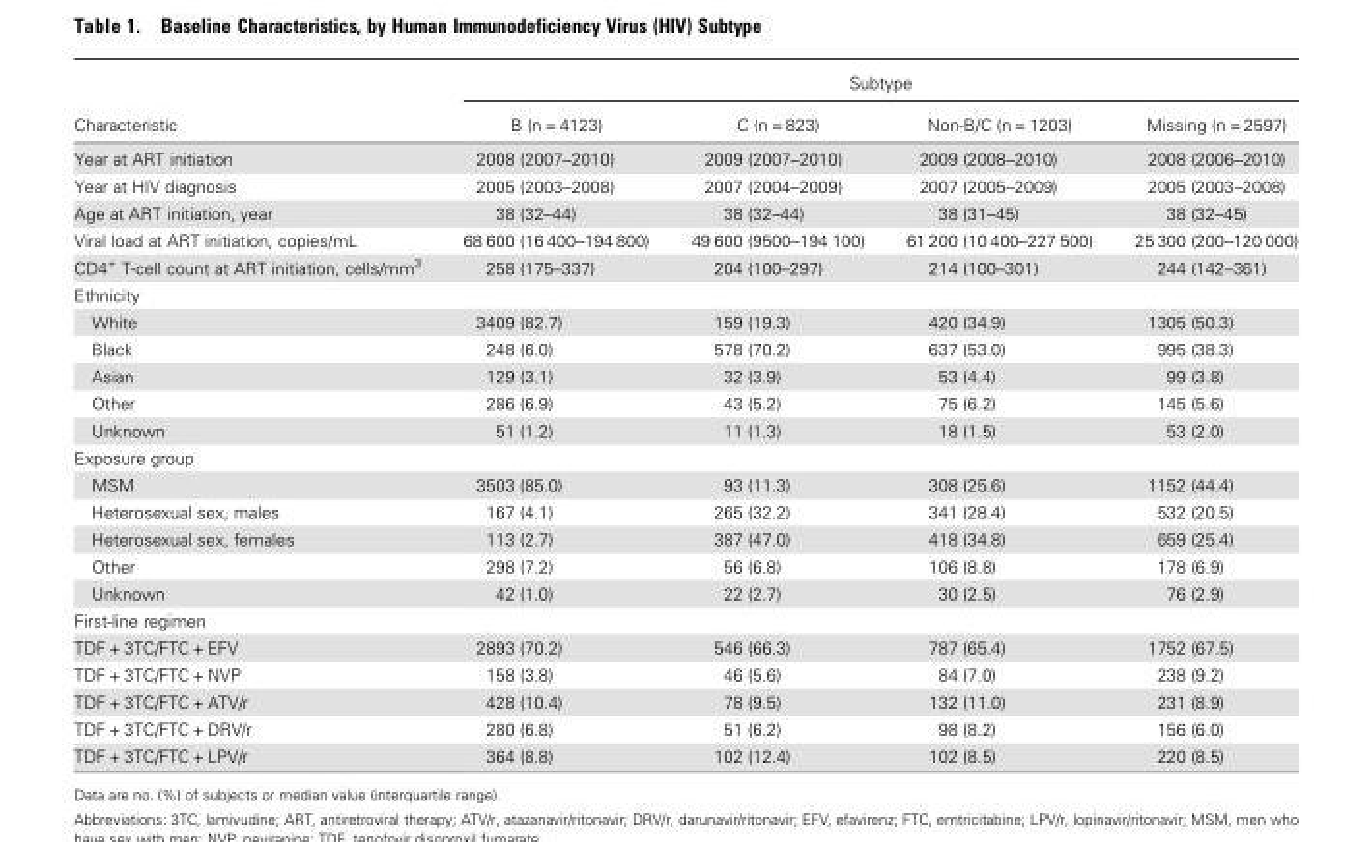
<table><thead><tr><td rowspan="2">Characteristic</td><td colspan="4">Subtype</td></tr><tr><td>B (n = 4123)</td><td>C (n = 823)</td><td>Non-B/C (n = 1203)</td><td>Missing (n = 2597)</td></tr></thead><tbody><tr><td>Year at ART initiation</td><td>2008 (2007–2010)</td><td>2009 (2007–2010)</td><td>2009 (2008–2010)</td><td>2008 (2006–2010)</td></tr><tr><td>Year at HIV diagnosis</td><td>2005 (2003–2008)</td><td>2007 (2004–2009)</td><td>2007 (2005–2009)</td><td>2005 (2003–2008)</td></tr><tr><td>Age at ART initiation, year</td><td>38 (32–44)</td><td>38 (32–44)</td><td>38 (31–45)</td><td>38 (32–45)</td></tr><tr><td>Viral load at ART initiation, copies/mL</td><td>68 600 (16 400–194 800)</td><td>49 600 (9500–194 100)</td><td>61 200 (10 400–227 500)</td><td>25 300 (200–120 000)</td></tr><tr><td>CD4<sup>+</sup> T-cell count at ART initiation, cells/mm<sup>3</sup></td><td>258 (175–337)</td><td>204 (100–297)</td><td>214 (100–301)</td><td>244 (142–361)</td></tr><tr><td colspan="5">Ethnicity</td></tr><tr><td>White</td><td>3409 (82.7)</td><td>159 (19.3)</td><td>420 (34.9)</td><td>1305 (50.3)</td></tr><tr><td>Black</td><td>248 (6.0)</td><td>578 (70.2)</td><td>637 (53.0)</td><td>995 (38.3)</td></tr><tr><td>Asian</td><td>129 (3.1)</td><td>32 (3.9)</td><td>53 (4.4)</td><td>99 (3.8)</td></tr><tr><td>Other</td><td>286 (6.9)</td><td>43 (5.2)</td><td>75 (6.2)</td><td>145 (5.6)</td></tr><tr><td>Unknown</td><td>51 (1.2)</td><td>11 (1.3)</td><td>18 (1.5)</td><td>53 (2.0)</td></tr><tr><td colspan="5">Exposure group</td></tr><tr><td>MSM</td><td>3503 (85.0)</td><td>93 (11.3)</td><td>308 (25.6)</td><td>1152 (44.4)</td></tr><tr><td>Heterosexual sex, males</td><td>167 (4.1)</td><td>265 (32.2)</td><td>341 (28.4)</td><td>532 (20.5)</td></tr><tr><td>Heterosexual sex, females</td><td>113 (2.7)</td><td>387 (47.0)</td><td>418 (34.8)</td><td>659 (25.4)</td></tr><tr><td>Other</td><td>298 (7.2)</td><td>56 (6.8)</td><td>106 (8.8)</td><td>178 (6.9)</td></tr><tr><td>Unknown</td><td>42 (1.0)</td><td>22 (2.7)</td><td>30 (2.5)</td><td>76 (2.9)</td></tr><tr><td colspan="5">First-line regimen</td></tr><tr><td>TDF + 3TC/FTC + EFV</td><td>2893 (70.2)</td><td>546 (66.3)</td><td>787 (65.4)</td><td>1752 (67.5)</td></tr><tr><td>TDF + 3TC/FTC + NVP</td><td>158 (3.8)</td><td>46 (5.6)</td><td>84 (7.0)</td><td>238 (9.2)</td></tr><tr><td>TDF + 3TC/FTC + ATV/r</td><td>428 (10.4)</td><td>78 (9.5)</td><td>132 (11.0)</td><td>231 (8.9)</td></tr><tr><td>TDF + 3TC/FTC + DRV/r</td><td>280 (6.8)</td><td>51 (6.2)</td><td>98 (8.2)</td><td>156 (6.0)</td></tr><tr><td>TDF + 3TC/FTC + LPV/r</td><td>364 (8.8)</td><td>102 (12.4)</td><td>102 (8.5)</td><td>220 (8.5)</td></tr></tbody></table>